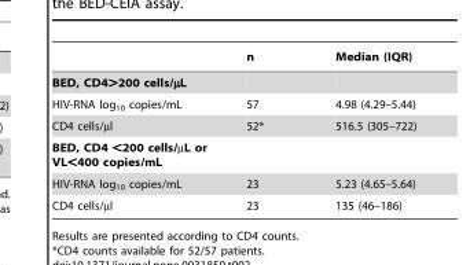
<table><thead><tr><td></td><td>n</td><td>Median (IQR)</td></tr></thead><tbody><tr><td colspan="3">BED, CD4&gt;200 cells/µL</td></tr><tr><td>HIV-RNA log<sub>10</sub> copies/mL</td><td>57</td><td>4.98 (4.29–5.44)</td></tr><tr><td>CD4 cells/µl</td><td>52*</td><td>516.5 (305–722)</td></tr><tr><td colspan="3">BED, CD4 &lt;200 cells/µL or VL&lt;400 copies/mL</td></tr><tr><td>HIV-RNA log<sub>10</sub> copies/mL</td><td>23</td><td>5.23 (4.65–5.64)</td></tr><tr><td>CD4 cells/µl</td><td>23</td><td>135 (46–186)</td></tr></tbody></table>